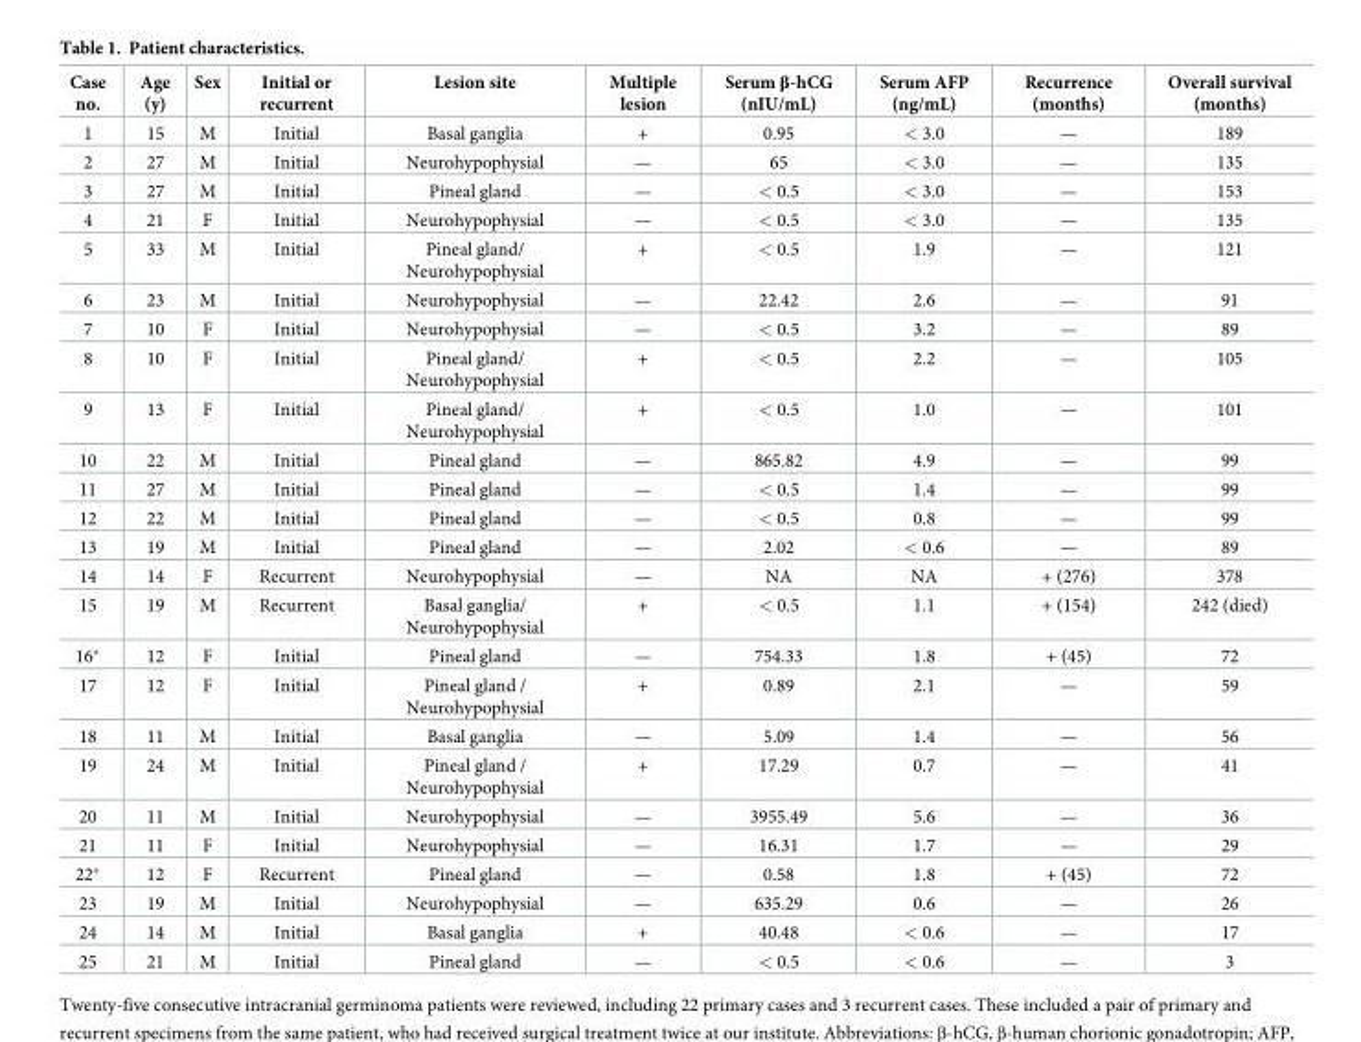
<table><thead><tr><td>Case no.</td><td>Age (y)</td><td>Sex</td><td>Initial or recurrent</td><td>Lesion site</td><td>Multiple lesion</td><td>Serum β-hCG (nIU/mL)</td><td>Serum AFP (ng/mL)</td><td>Recurrence (months)</td><td>Overall survival (months)</td></tr></thead><tbody><tr><td>1</td><td>15</td><td>M</td><td>Initial</td><td>Basal ganglia</td><td>+</td><td>0.95</td><td>&lt; 3.0</td><td>—</td><td>189</td></tr><tr><td>2</td><td>27</td><td>M</td><td>Initial</td><td>Neurohypophysial</td><td>—</td><td>65</td><td>&lt; 3.0</td><td>—</td><td>135</td></tr><tr><td>3</td><td>27</td><td>M</td><td>Initial</td><td>Pineal gland</td><td>—</td><td>&lt; 0.5</td><td>&lt; 3.0</td><td>—</td><td>153</td></tr><tr><td>4</td><td>21</td><td>F</td><td>Initial</td><td>Neurohypophysial</td><td>—</td><td>&lt; 0.5</td><td>&lt; 3.0</td><td>—</td><td>135</td></tr><tr><td>5</td><td>33</td><td>M</td><td>Initial</td><td>Pineal gland/ Neurohypophysial</td><td>+</td><td>&lt; 0.5</td><td>1.9</td><td>—</td><td>121</td></tr><tr><td>6</td><td>23</td><td>M</td><td>Initial</td><td>Neurohypophysial</td><td>—</td><td>22.42</td><td>2.6</td><td>—</td><td>91</td></tr><tr><td>7</td><td>10</td><td>F</td><td>Initial</td><td>Neurohypophysial</td><td>—</td><td>&lt; 0.5</td><td>3.2</td><td>—</td><td>89</td></tr><tr><td>8</td><td>10</td><td>F</td><td>Initial</td><td>Pineal gland/ Neurohypophysial</td><td>+</td><td>&lt; 0.5</td><td>2.2</td><td>—</td><td>105</td></tr><tr><td>9</td><td>13</td><td>F</td><td>Initial</td><td>Pineal gland/ Neurohypophysial</td><td>+</td><td>&lt; 0.5</td><td>1.0</td><td>—</td><td>101</td></tr><tr><td>10</td><td>22</td><td>M</td><td>Initial</td><td>Pineal gland</td><td>—</td><td>865.82</td><td>4.9</td><td>—</td><td>99</td></tr><tr><td>11</td><td>27</td><td>M</td><td>Initial</td><td>Pineal gland</td><td>—</td><td>&lt; 0.5</td><td>1.4</td><td>—</td><td>99</td></tr><tr><td>12</td><td>22</td><td>M</td><td>Initial</td><td>Pineal gland</td><td>—</td><td>&lt; 0.5</td><td>0.8</td><td>—</td><td>99</td></tr><tr><td>13</td><td>19</td><td>M</td><td>Initial</td><td>Pineal gland</td><td>—</td><td>2.02</td><td>&lt; 0.6</td><td>—</td><td>89</td></tr><tr><td>14</td><td>14</td><td>F</td><td>Recurrent</td><td>Neurohypophysial</td><td>—</td><td>NA</td><td>NA</td><td>+ (276)</td><td>378</td></tr><tr><td>15</td><td>19</td><td>M</td><td>Recurrent</td><td>Basal ganglia/ Neurohypophysial</td><td>+</td><td>&lt; 0.5</td><td>1.1</td><td>+ (154)</td><td>242 (died)</td></tr><tr><td>16*</td><td>12</td><td>F</td><td>Initial</td><td>Pineal gland</td><td>—</td><td>754.33</td><td>1.8</td><td>+ (45)</td><td>72</td></tr><tr><td>17</td><td>12</td><td>F</td><td>Initial</td><td>Pineal gland / Neurohypophysial</td><td>+</td><td>0.89</td><td>2.1</td><td>—</td><td>59</td></tr><tr><td>18</td><td>11</td><td>M</td><td>Initial</td><td>Basal ganglia</td><td>—</td><td>5.09</td><td>1.4</td><td>—</td><td>56</td></tr><tr><td>19</td><td>24</td><td>M</td><td>Initial</td><td>Pineal gland / Neurohypophysial</td><td>+</td><td>17.29</td><td>0.7</td><td>—</td><td>41</td></tr><tr><td>20</td><td>11</td><td>M</td><td>Initial</td><td>Neurohypophysial</td><td>—</td><td>3955.49</td><td>5.6</td><td>—</td><td>36</td></tr><tr><td>21</td><td>11</td><td>F</td><td>Initial</td><td>Neurohypophysial</td><td>—</td><td>16.31</td><td>1.7</td><td>—</td><td>29</td></tr><tr><td>22*</td><td>12</td><td>F</td><td>Recurrent</td><td>Pineal gland</td><td>—</td><td>0.58</td><td>1.8</td><td>+ (45)</td><td>72</td></tr><tr><td>23</td><td>19</td><td>M</td><td>Initial</td><td>Neurohypophysial</td><td>—</td><td>635.29</td><td>0.6</td><td>—</td><td>26</td></tr><tr><td>24</td><td>14</td><td>M</td><td>Initial</td><td>Basal ganglia</td><td>+</td><td>40.48</td><td>&lt; 0.6</td><td>—</td><td>17</td></tr><tr><td>25</td><td>21</td><td>M</td><td>Initial</td><td>Pineal gland</td><td>—</td><td>&lt; 0.5</td><td>&lt; 0.6</td><td>—</td><td>3</td></tr></tbody></table>